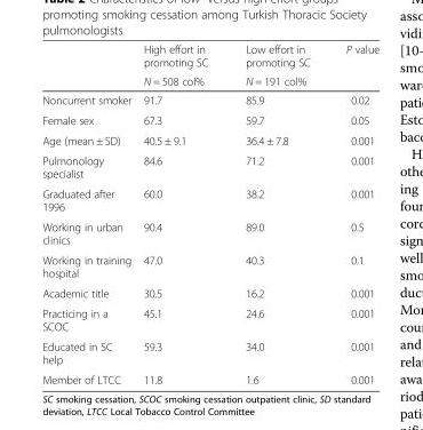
<table><thead><tr><td rowspan="2"></td><td rowspan="2">High effort in promoting SC N = 508 col%</td><td rowspan="2">Low effort in promoting SC N = 191 col%</td><td rowspan="2">P value</td></tr><tr></tr></thead><tbody><tr><td>Noncurrent smoker</td><td>91.7</td><td>85.9</td><td>0.02</td></tr><tr><td>Female sex</td><td>67.3</td><td>59.7</td><td>0.05</td></tr><tr><td>Age (mean ± SD)</td><td>40.5 ± 9.1</td><td>36.4 ± 7.8</td><td>0.001</td></tr><tr><td>Pulmonology specialist</td><td>84.6</td><td>71.2</td><td>0.001</td></tr><tr><td>Graduated after 1996</td><td>60.0</td><td>38.2</td><td>0.001</td></tr><tr><td>Working in urban clinics</td><td>90.4</td><td>89.0</td><td>0.5</td></tr><tr><td>Working in training hospital</td><td>47.0</td><td>40.3</td><td>0.1</td></tr><tr><td>Academic title</td><td>30.5</td><td>16.2</td><td>0.001</td></tr><tr><td>Practicing in a SCOC</td><td>45.1</td><td>24.6</td><td>0.001</td></tr><tr><td>Educated in SC help</td><td>59.3</td><td>34.0</td><td>0.001</td></tr><tr><td>Member of LTCC</td><td>11.8</td><td>1.6</td><td>0.001</td></tr></tbody></table>